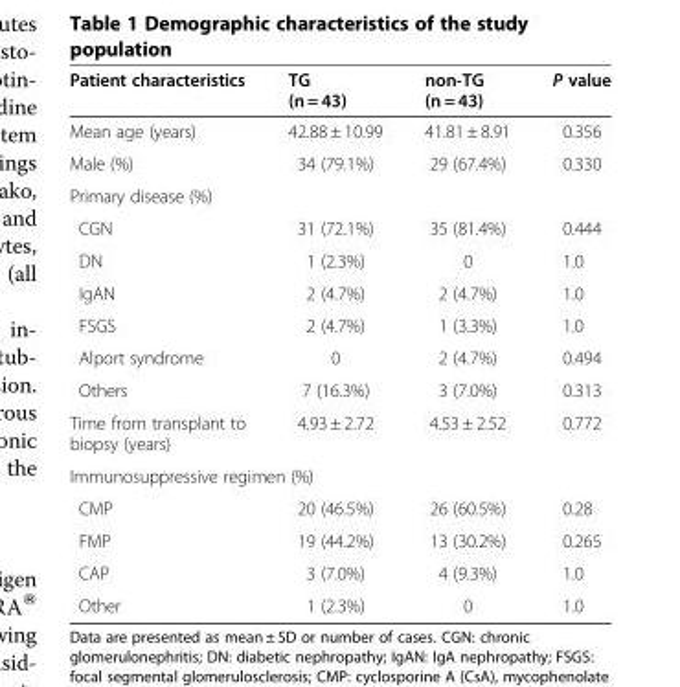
<table><thead><tr><td>Patient characteristics</td><td>TG (n = 43)</td><td>non-TG (n = 43)</td><td>P value</td></tr></thead><tbody><tr><td>Mean age (years)</td><td>42.88 ± 10.99</td><td>41.81 ± 8.91</td><td>0.356</td></tr><tr><td>Male (%)</td><td>34 (79.1%)</td><td>29 (67.4%)</td><td>0.330</td></tr><tr><td colspan="4">Primary disease (%)</td></tr><tr><td>CGN</td><td>31 (72.1%)</td><td>35 (81.4%)</td><td>0.444</td></tr><tr><td>DN</td><td>1 (2.3%)</td><td>0</td><td>1.0</td></tr><tr><td>IgAN</td><td>2 (4.7%)</td><td>2 (4.7%)</td><td>1.0</td></tr><tr><td>FSGS</td><td>2 (4.7%)</td><td>1 (3.3%)</td><td>1.0</td></tr><tr><td>Alport syndrome</td><td>0</td><td>2 (4.7%)</td><td>0.494</td></tr><tr><td>Others</td><td>7 (16.3%)</td><td>3 (7.0%)</td><td>0.313</td></tr><tr><td>Time from transplant to biopsy (years)</td><td>4.93 ± 2.72</td><td>4.53 ± 2.52</td><td>0.772</td></tr><tr><td colspan="4">Immunosuppressive regimen (%)</td></tr><tr><td>CMP</td><td>20 (46.5%)</td><td>26 (60.5%)</td><td>0.28</td></tr><tr><td>FMP</td><td>19 (44.2%)</td><td>13 (30.2%)</td><td>0.265</td></tr><tr><td>CAP</td><td>3 (7.0%)</td><td>4 (9.3%)</td><td>1.0</td></tr><tr><td>Other</td><td>1 (2.3%)</td><td>0</td><td>1.0</td></tr></tbody></table>